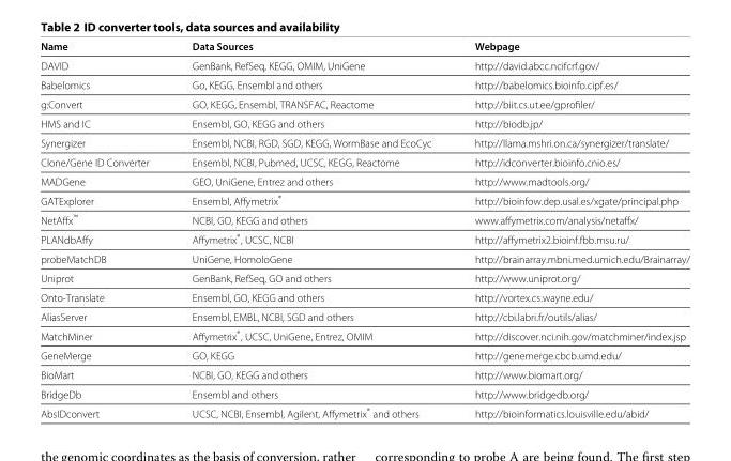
<table><thead><tr><td>Name</td><td>Data Sources</td><td>Webpage</td></tr></thead><tbody><tr><td>DAVID</td><td>GenBank, RefSeq, KEGG, OMIM, UniGene</td><td>http://david.abcc.ncifcrf.gov/</td></tr><tr><td>Babelomics</td><td>Go, KEGG, Ensembl and others</td><td>http://babelomics.bioinfo.cipf.es/</td></tr><tr><td>g:Convert</td><td>GO, KEGG, Ensembl, TRANSFAC, Reactome</td><td>http://biit.cs.ut.ee/gprofiler/</td></tr><tr><td>HMS and IC</td><td>Ensembl, GO, KEGG and others</td><td>http://biodb.jp/</td></tr><tr><td>Synergizer</td><td>Ensembl, NCBI, RGD, SGD, KEGG, WormBase and EcoCyc</td><td>http://llama.mshri.on.ca/synergizer/translate/</td></tr><tr><td>Clone/Gene ID Converter</td><td>Ensembl, NCBI, Pubmed, UCSC, KEGG, Reactome</td><td>http://idconverter.bioinfo.cnio.es/</td></tr><tr><td>MADGene</td><td>GEO, UniGene, Entrez and others</td><td>http://www.madtools.org/</td></tr><tr><td>GATExplorer</td><td>Ensembl, Affymetrix®</td><td>http://bioinfow.dep.usal.es/xgate/principal.php</td></tr><tr><td>NetAffx<sup>™</sup></td><td>NCBI, GO, KEGG and others</td><td>www.affymetrix.com/analysis/netaffx/</td></tr><tr><td>PLANdbAffy</td><td>Affymetrix®, UCSC, NCBI</td><td>http://affymetrix2.bioinf.fbb.msu.ru/</td></tr><tr><td>probeMatchDB</td><td>UniGene, HomoloGene</td><td>http://brainarray.mbni.med.umich.edu/Brainarray/</td></tr><tr><td>Uniprot</td><td>GenBank, RefSeq, GO and others</td><td>http://www.uniprot.org/</td></tr><tr><td>Onto-Translate</td><td>Ensembl, GO, KEGG and others</td><td>http://vortex.cs.wayne.edu/</td></tr><tr><td>AliasServer</td><td>Ensembl, EMBL, NCBI, SGD and others</td><td>http://cbi.labri.fr/outils/alias/</td></tr><tr><td>MatchMiner</td><td>Affymetrix®, UCSC, UniGene, Entrez, OMIM</td><td>http://discover.nci.nih.gov/matchminer/index.jsp</td></tr><tr><td>GeneMerge</td><td>GO, KEGG</td><td>http://genemerge.cbcb.umd.edu/</td></tr><tr><td>BioMart</td><td>NCBI, GO, KEGG and others</td><td>http://www.biomart.org/</td></tr><tr><td>BridgeDb</td><td>Ensembl and others</td><td>http://www.bridgedb.org/</td></tr><tr><td>AbsIDconvert</td><td>UCSC, NCBI, Ensembl, Agilent, Affymetrix® and others</td><td>http://bioinformatics.louisville.edu/abid/</td></tr></tbody></table>